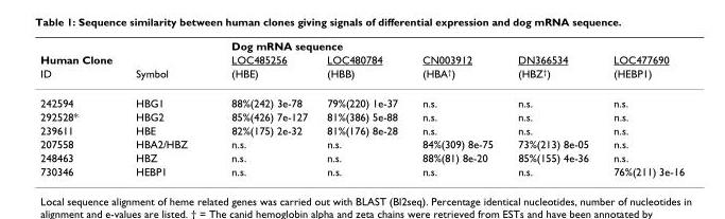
<table><thead><tr><td></td><td></td><td colspan="5">Dog mRNA sequence</td></tr><tr><td colspan="2">Human Clone</td><td rowspan="2">LOC485256 (HBE)</td><td rowspan="2">LOC480784 (HBB)</td><td rowspan="2">CN003912 (HBA<sup>†</sup>)</td><td rowspan="2">DN366534 (HBZ<sup>†</sup>)</td><td rowspan="2">LOC477690 (HEBP1)</td></tr><tr><td>ID</td><td>Symbol</td></tr></thead><tbody><tr><td>242594</td><td>HBG1</td><td>88%(242) 3e-78</td><td>79%(220) 1e-37</td><td>n.s.</td><td>n.s.</td><td>n.s.</td></tr><tr><td>292528*</td><td>HBG2</td><td>85%(426) 7e-127</td><td>81%(386) 5e-88</td><td>n.s.</td><td>n.s.</td><td>n.s.</td></tr><tr><td>239611</td><td>HBE</td><td>82%(175) 2e-32</td><td>81%(176) 8e-28</td><td>n.s.</td><td>n.s.</td><td>n.s.</td></tr><tr><td>207558</td><td>HBA2/HBZ</td><td>n.s.</td><td>n.s.</td><td>84%(309) 8e-75</td><td>73%(213) 8e-05</td><td>n.s.</td></tr><tr><td>248463</td><td>HBZ</td><td>n.s.</td><td>n.s.</td><td>88%(81) 8e-20</td><td>85%(155) 4e-36</td><td>n.s.</td></tr><tr><td>730346</td><td>HEBP1</td><td>n.s.</td><td>n.s.</td><td>n.s.</td><td>n.s.</td><td>76%(211) 3e-16</td></tr></tbody></table>